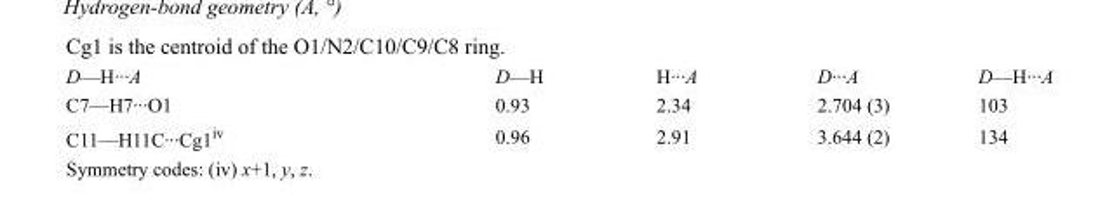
<table><tbody><tr><td>D—H···A</td><td>D—H</td><td>H···A</td><td>D···A</td><td>D—H···A</td></tr><tr><td>C7—H7···O1</td><td>0.93</td><td>2.34</td><td>2.704 (3)</td><td>103</td></tr><tr><td>C11—H11C···Cg1<sup>iv</sup></td><td>0.96</td><td>2.91</td><td>3.644 (2)</td><td>134</td></tr></tbody></table>